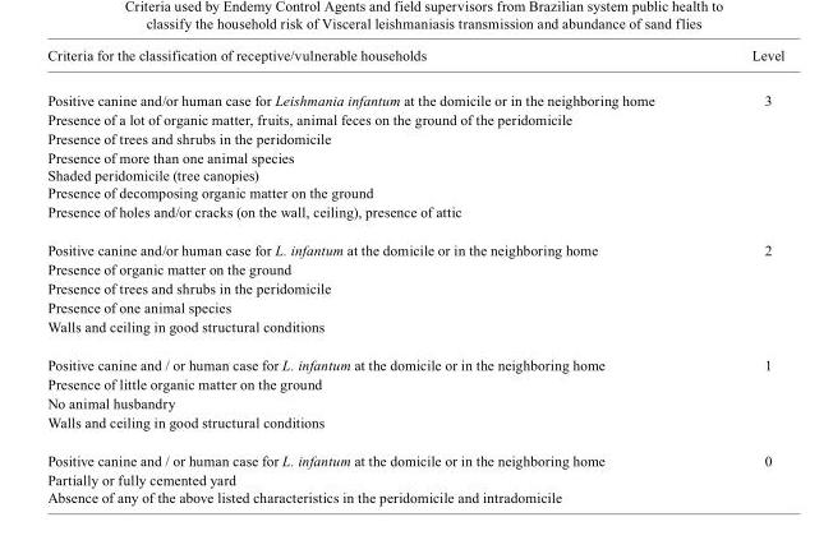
<table><thead><tr><td>Criteria for the classification of receptive/vulnerable households</td><td>Level</td></tr></thead><tbody><tr><td>Positive canine and/or human case for Leishmania infantum at the domicile or in the neighboring home</td><td rowspan="5">3</td></tr><tr><td>Presence of a lot of organic matter, fruits, animal feces on the ground of the peridomicile</td></tr><tr><td>Presence of trees and shrubs in the peridomicile</td></tr><tr><td>Presence of more than one animal species Shaded peridomicile (tree canopies) Presence of decomposing organic matter on the ground</td></tr><tr><td>Presence of holes and/or cracks (on the wall, ceiling), presence of attic</td></tr><tr><td>Positive canine and/or human case for L. infantum at the domicile or in the neighboring home</td><td rowspan="5">2</td></tr><tr><td>Presence of organic matter on the ground</td></tr><tr><td>Presence of trees and shrubs in the peridomicile</td></tr><tr><td>Presence of one animal species</td></tr><tr><td>Walls and ceiling in good structural conditions</td></tr><tr><td>Positive canine and / or human case for L. infantum at the domicile or in the neighboring home</td><td rowspan="4">1</td></tr><tr><td>Presence of little organic matter on the ground</td></tr><tr><td>No animal husbandry</td></tr><tr><td>Walls and ceiling in good structural conditions</td></tr><tr><td>Positive canine and / or human case for L. infantum at the domicile or in the neighboring home</td><td rowspan="2">0</td></tr><tr><td>Partially or fully cemented yard Absence of any of the above listed characteristics in the peridomicile and intradomicile</td></tr></tbody></table>